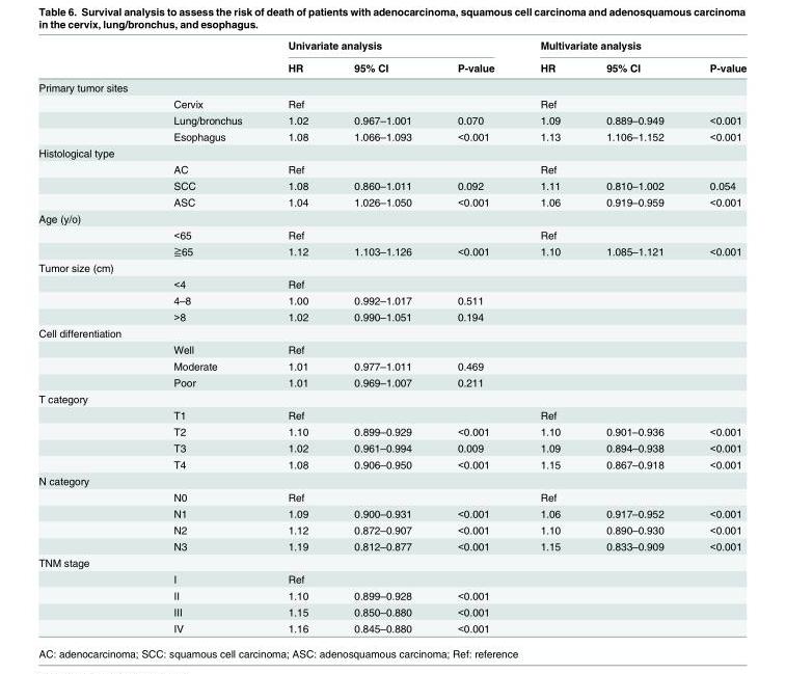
<table><thead><tr><td rowspan="2"></td><td rowspan="2"></td><td colspan="3">Univariate analysis</td><td colspan="3">Multivariate analysis</td></tr><tr><td>HR</td><td>95% CI</td><td>P-value</td><td>HR</td><td>95% CI</td><td>P-value</td></tr></thead><tbody><tr><td colspan="8">Primary tumor sites</td></tr><tr><td></td><td>Cervix</td><td>Ref</td><td></td><td></td><td>Ref</td><td></td><td></td></tr><tr><td></td><td>Lung/bronchus</td><td>1.02</td><td>0.967–1.001</td><td>0.070</td><td>1.09</td><td>0.889–0.949</td><td>&lt;0.001</td></tr><tr><td></td><td>Esophagus</td><td>1.08</td><td>1.066–1.093</td><td>&lt;0.001</td><td>1.13</td><td>1.106–1.152</td><td>&lt;0.001</td></tr><tr><td colspan="8">Histological type</td></tr><tr><td></td><td>AC</td><td>Ref</td><td></td><td></td><td>Ref</td><td></td><td></td></tr><tr><td></td><td>SCC</td><td>1.08</td><td>0.860–1.011</td><td>0.092</td><td>1.11</td><td>0.810–1.002</td><td>0.054</td></tr><tr><td></td><td>ASC</td><td>1.04</td><td>1.026–1.050</td><td>&lt;0.001</td><td>1.06</td><td>0.919–0.959</td><td>&lt;0.001</td></tr><tr><td colspan="8">Age (y/o)</td></tr><tr><td></td><td>&lt;65</td><td>Ref</td><td></td><td></td><td>Ref</td><td></td><td></td></tr><tr><td></td><td>≧65</td><td>1.12</td><td>1.103–1.126</td><td>&lt;0.001</td><td>1.10</td><td>1.085–1.121</td><td>&lt;0.001</td></tr><tr><td colspan="8">Tumor size (cm)</td></tr><tr><td></td><td>&lt;4</td><td>Ref</td><td></td><td></td><td></td><td></td><td></td></tr><tr><td></td><td>4–8</td><td>1.00</td><td>0.992–1.017</td><td>0.511</td><td></td><td></td><td></td></tr><tr><td></td><td>&gt;8</td><td>1.02</td><td>0.990–1.051</td><td>0.194</td><td></td><td></td><td></td></tr><tr><td colspan="8">Cell differentiation</td></tr><tr><td></td><td>Well</td><td>Ref</td><td></td><td></td><td></td><td></td><td></td></tr><tr><td></td><td>Moderate</td><td>1.01</td><td>0.977–1.011</td><td>0.469</td><td></td><td></td><td></td></tr><tr><td></td><td>Poor</td><td>1.01</td><td>0.969–1.007</td><td>0.211</td><td></td><td></td><td></td></tr><tr><td colspan="8">T category</td></tr><tr><td></td><td>T1</td><td>Ref</td><td></td><td></td><td>Ref</td><td></td><td></td></tr><tr><td></td><td>T2</td><td>1.10</td><td>0.899–0.929</td><td>&lt;0.001</td><td>1.10</td><td>0.901–0.936</td><td>&lt;0.001</td></tr><tr><td></td><td>T3</td><td>1.02</td><td>0.961–0.994</td><td>0.009</td><td>1.09</td><td>0.894–0.938</td><td>&lt;0.001</td></tr><tr><td></td><td>T4</td><td>1.08</td><td>0.906–0.950</td><td>&lt;0.001</td><td>1.15</td><td>0.867–0.918</td><td>&lt;0.001</td></tr><tr><td colspan="8">N category</td></tr><tr><td></td><td>N0</td><td>Ref</td><td></td><td></td><td>Ref</td><td></td><td></td></tr><tr><td></td><td>N1</td><td>1.09</td><td>0.900–0.931</td><td>&lt;0.001</td><td>1.06</td><td>0.917–0.952</td><td>&lt;0.001</td></tr><tr><td></td><td>N2</td><td>1.12</td><td>0.872–0.907</td><td>&lt;0.001</td><td>1.10</td><td>0.890–0.930</td><td>&lt;0.001</td></tr><tr><td></td><td>N3</td><td>1.19</td><td>0.812–0.877</td><td>&lt;0.001</td><td>1.15</td><td>0.833–0.909</td><td>&lt;0.001</td></tr><tr><td colspan="8">TNM stage</td></tr><tr><td></td><td>I</td><td>Ref</td><td></td><td></td><td></td><td></td><td></td></tr><tr><td></td><td>II</td><td>1.10</td><td>0.899–0.928</td><td>&lt;0.001</td><td></td><td></td><td></td></tr><tr><td></td><td>III</td><td>1.15</td><td>0.850–0.880</td><td>&lt;0.001</td><td></td><td></td><td></td></tr><tr><td></td><td>IV</td><td>1.16</td><td>0.845–0.880</td><td>&lt;0.001</td><td></td><td></td><td></td></tr></tbody></table>